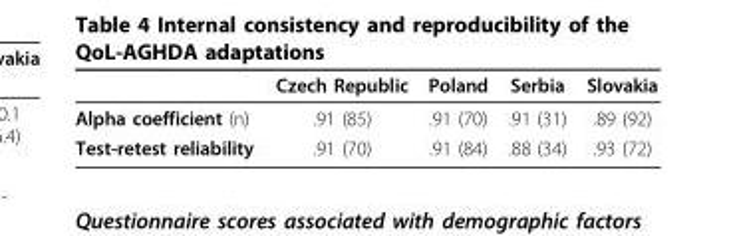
<table><thead><tr><td></td><td>Czech Republic</td><td>Poland</td><td>Serbia</td><td>Slovakia</td></tr></thead><tbody><tr><td>Alpha coefficient (n)</td><td>.91 (85)</td><td>.91 (70)</td><td>.91 (31)</td><td>.89 (92)</td></tr><tr><td>Test-retest reliability</td><td>.91 (70)</td><td>.91 (84)</td><td>.88 (34)</td><td>.93 (72)</td></tr></tbody></table>